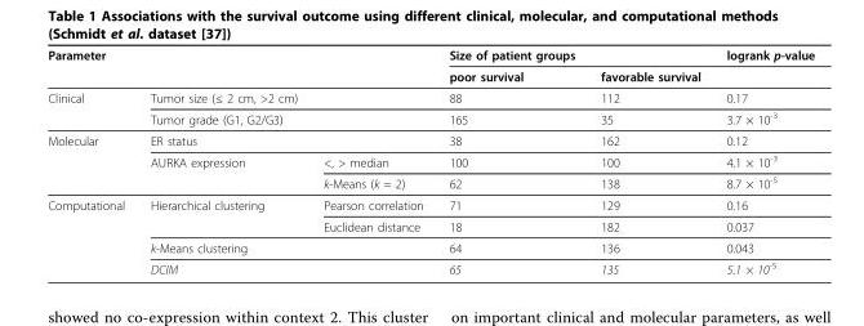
<table><thead><tr><td rowspan="2">Parameter</td><td rowspan="2"></td><td rowspan="2"></td><td rowspan="2">Size of patient groups poor survival</td><td rowspan="2">favorable survival</td><td rowspan="2">logrank p-value</td></tr><tr></tr></thead><tbody><tr><td rowspan="2">Clinical</td><td>Tumor size (≤ 2 cm, &gt;2 cm)</td><td></td><td>88</td><td>112</td><td>0.17</td></tr><tr><td>Tumor grade (G1, G2/G3)</td><td></td><td>165</td><td>35</td><td>3.7 × 10<sup>-3</sup></td></tr><tr><td rowspan="3">Molecular</td><td>ER status</td><td></td><td>38</td><td>162</td><td>0.12</td></tr><tr><td>AURKA expression</td><td>&lt;, &gt; median</td><td>100</td><td>100</td><td>4.1 × 10<sup>-3</sup></td></tr><tr><td></td><td>k-Means (k = 2)</td><td>62</td><td>138</td><td>8.7 × 10<sup>-5</sup></td></tr><tr><td rowspan="4">Computational</td><td>Hierarchical clustering</td><td>Pearson correlation</td><td>71</td><td>129</td><td>0.16</td></tr><tr><td></td><td>Euclidean distance</td><td>18</td><td>182</td><td>0.037</td></tr><tr><td>k-Means clustering</td><td></td><td>64</td><td>136</td><td>0.043</td></tr><tr><td>DCIM</td><td></td><td>65</td><td>135</td><td>5.1 × 10<sup>-5</sup></td></tr></tbody></table>